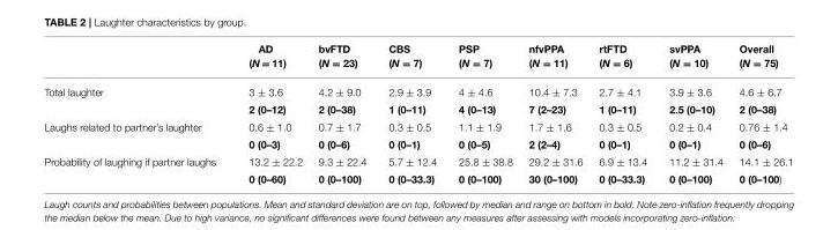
<table><thead><tr><td></td><td>AD (N = 11)</td><td>bvFTD (N = 23)</td><td>CBS (N = 7)</td><td>PSP (N = 7)</td><td>nfvPPA (N = 11)</td><td>rtFTD (N = 6)</td><td>svPPA (N = 10)</td><td>Overall (N = 75)</td></tr></thead><tbody><tr><td rowspan="2">Total laughter</td><td>3 ± 3.6</td><td>4.2 ± 9.0</td><td>2.9 ± 3.9</td><td>4 ± 4.6</td><td>10.4 ± 7.3</td><td>2.7 ± 4.1</td><td>3.9 ± 3.6</td><td>4.6 ± 6.7</td></tr><tr><td>2 (0–12)</td><td>2 (0–38)</td><td>1 (0–11)</td><td>4 (0–13)</td><td>7 (2–23)</td><td>1 (0–11)</td><td>2.5 (0–10)</td><td>2 (0–38)</td></tr><tr><td rowspan="2">Laughs related to partner’s laughter</td><td>0.6 ± 1.0</td><td>0.7 ± 1.7</td><td>0.3 ± 0.5</td><td>1.1 ± 1.9</td><td>1.7 ± 1.6</td><td>0.3 ± 0.5</td><td>0.2 ± 0.4</td><td>0.76 ± 1.4</td></tr><tr><td>0 (0–3)</td><td>0 (0–6)</td><td>0 (0–1)</td><td>0 (0–5)</td><td>2 (2–4)</td><td>0 (0–1)</td><td>0 (0–1)</td><td>0 (0–6)</td></tr><tr><td rowspan="2">Probability of laughing if partner laughs</td><td>13.2 ± 22.2</td><td>9.3 ± 22.4</td><td>5.7 ± 12.4</td><td>25.8 ± 38.8</td><td>29.2 ± 31.6</td><td>6.9 ± 13.4</td><td>11.2 ± 31.4</td><td>14.1 ± 26.1</td></tr><tr><td>0 (0–60)</td><td>0 (0–100)</td><td>0 (0–33.3)</td><td>0 (0–100)</td><td>30 (0–100)</td><td>0 (0–33.3)</td><td>0 (0–100)</td><td>0 (0–100)</td></tr></tbody></table>